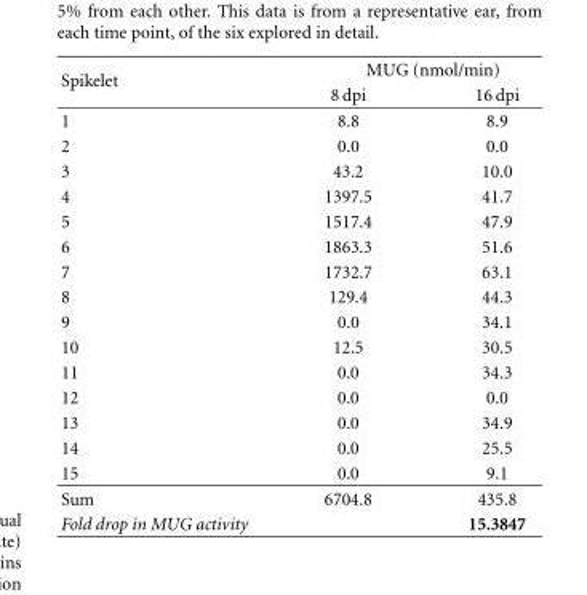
<table><thead><tr><td rowspan="2">Spikelet</td><td colspan="2">MUG (nmol/min)</td></tr><tr><td>8 dpi</td><td>16 dpi</td></tr></thead><tbody><tr><td>1</td><td>8.8</td><td>8.9</td></tr><tr><td>2</td><td>0.0</td><td>0.0</td></tr><tr><td>3</td><td>43.2</td><td>10.0</td></tr><tr><td>4</td><td>1397.5</td><td>41.7</td></tr><tr><td>5</td><td>1517.4</td><td>47.9</td></tr><tr><td>6</td><td>1863.3</td><td>51.6</td></tr><tr><td>7</td><td>1732.7</td><td>63.1</td></tr><tr><td>8</td><td>129.4</td><td>44.3</td></tr><tr><td>9</td><td>0.0</td><td>34.1</td></tr><tr><td>10</td><td>12.5</td><td>30.5</td></tr><tr><td>11</td><td>0.0</td><td>34.3</td></tr><tr><td>12</td><td>0.0</td><td>0.0</td></tr><tr><td>13</td><td>0.0</td><td>34.9</td></tr><tr><td>14</td><td>0.0</td><td>25.5</td></tr><tr><td>15</td><td>0.0</td><td>9.1</td></tr><tr><td>Sum</td><td>6704.8</td><td>435.8</td></tr><tr><td>Fold drop in MUG activity</td><td></td><td>15.3847</td></tr></tbody></table>